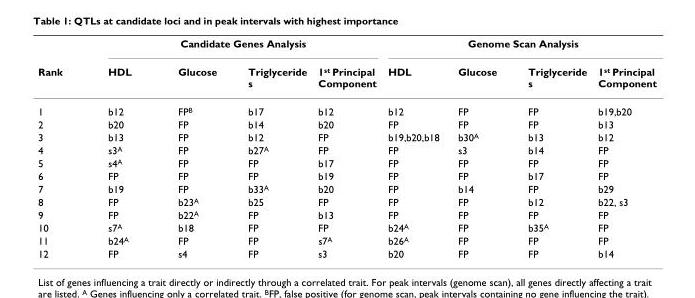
<table><thead><tr><td rowspan="2">Rank</td><td colspan="4">Candidate Genes Analysis</td><td colspan="4">Genome Scan Analysis</td></tr><tr><td>HDL</td><td>Glucose</td><td>Triglyceride s</td><td>1st Principal Component</td><td>HDL</td><td>Glucose</td><td>Triglyceride s</td><td>1st Principal Component</td></tr></thead><tbody><tr><td>1</td><td>b12</td><td>FPB</td><td>b17</td><td>b12</td><td>b12</td><td>FP</td><td>FP</td><td>b19,b20</td></tr><tr><td>2</td><td>b20</td><td>FP</td><td>b14</td><td>b20</td><td>FP</td><td>FP</td><td>FP</td><td>b13</td></tr><tr><td>3</td><td>b13</td><td>FP</td><td>b12</td><td>FP</td><td>b19,b20,b18</td><td>b30A</td><td>b13</td><td>b12</td></tr><tr><td>4</td><td>s3A</td><td>FP</td><td>b27A</td><td>FP</td><td>FP</td><td>s3</td><td>b14</td><td>FP</td></tr><tr><td>5</td><td>s4A</td><td>FP</td><td>FP</td><td>b17</td><td>FP</td><td>FP</td><td>FP</td><td>FP</td></tr><tr><td>6</td><td>FP</td><td>FP</td><td>FP</td><td>b19</td><td>FP</td><td>FP</td><td>b17</td><td>FP</td></tr><tr><td>7</td><td>b19</td><td>FP</td><td>b33A</td><td>b20</td><td>FP</td><td>b14</td><td>FP</td><td>b29</td></tr><tr><td>8</td><td>FP</td><td>b23A</td><td>b25</td><td>FP</td><td>FP</td><td>FP</td><td>b12</td><td>b22, s3</td></tr><tr><td>9</td><td>FP</td><td>b22A</td><td>FP</td><td>b13</td><td>FP</td><td>FP</td><td>FP</td><td>FP</td></tr><tr><td>10</td><td>s7A</td><td>b18</td><td>FP</td><td>FP</td><td>b24A</td><td>FP</td><td>b35A</td><td>FP</td></tr><tr><td>11</td><td>b24A</td><td>FP</td><td>FP</td><td>s7A</td><td>b26A</td><td>FP</td><td>FP</td><td>FP</td></tr><tr><td>12</td><td>FP</td><td>s4</td><td>FP</td><td>s3</td><td>b20</td><td>FP</td><td>FP</td><td>b14</td></tr></tbody></table>